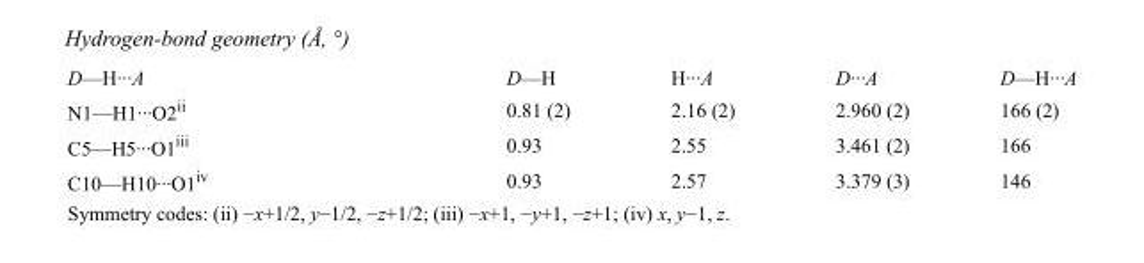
<table><tbody><tr><td>D—H···A</td><td>D—H</td><td>H···A</td><td>D···A</td><td>D—H···A</td></tr><tr><td>N1—H1···O2<sup>ii</sup></td><td>0.81 (2)</td><td>2.16 (2)</td><td>2.960 (2)</td><td>166 (2)</td></tr><tr><td>C5—H5···O1<sup>iii</sup></td><td>0.93</td><td>2.55</td><td>3.461 (2)</td><td>166</td></tr><tr><td>C10—H10···O1<sup>iv</sup></td><td>0.93</td><td>2.57</td><td>3.379 (3)</td><td>146</td></tr></tbody></table>